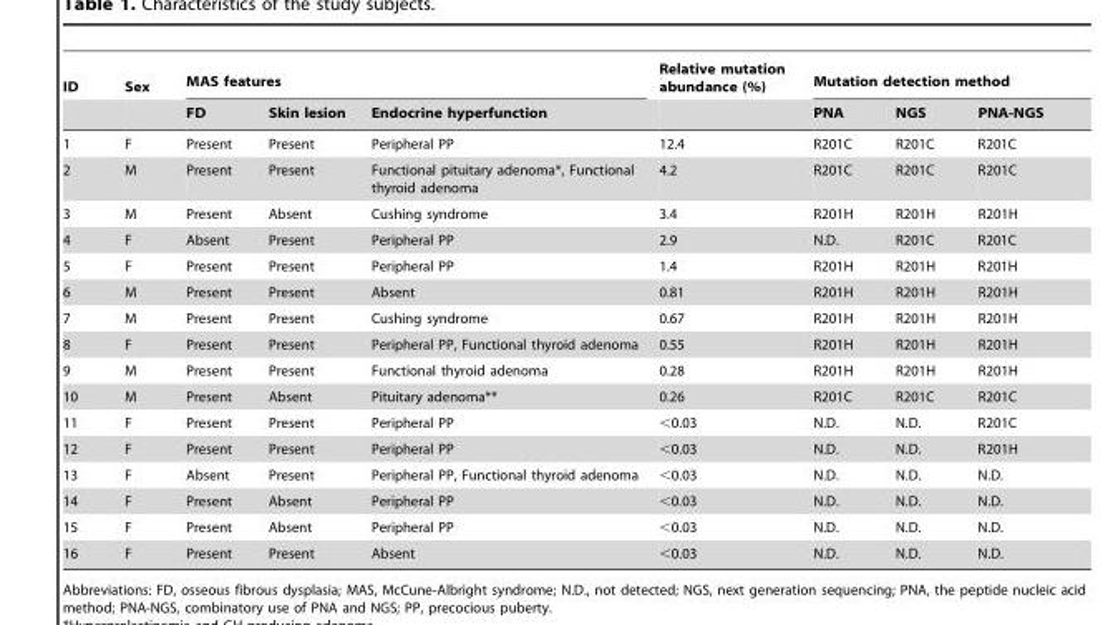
<table><thead><tr><td rowspan="2">ID</td><td rowspan="2">Sex</td><td colspan="3">MAS features</td><td rowspan="2">Relative mutation abundance (%)</td><td colspan="3">Mutation detection method</td></tr><tr><td>FD</td><td>Skin lesion</td><td>Endocrine hyperfunction</td><td>PNA</td><td>NGS</td><td>PNA-NGS</td></tr></thead><tbody><tr><td>1</td><td>F</td><td>Present</td><td>Present</td><td>Peripheral PP</td><td>12.4</td><td>R201C</td><td>R201C</td><td>R201C</td></tr><tr><td>2</td><td>M</td><td>Present</td><td>Present</td><td>Functional pituitary adenoma*, Functional thyroid adenoma</td><td>4.2</td><td>R201C</td><td>R201C</td><td>R201C</td></tr><tr><td>3</td><td>M</td><td>Present</td><td>Absent</td><td>Cushing syndrome</td><td>3.4</td><td>R201H</td><td>R201H</td><td>R201H</td></tr><tr><td>4</td><td>F</td><td>Absent</td><td>Present</td><td>Peripheral PP</td><td>2.9</td><td>N.D.</td><td>R201C</td><td>R201C</td></tr><tr><td>5</td><td>F</td><td>Present</td><td>Present</td><td>Peripheral PP</td><td>1.4</td><td>R201H</td><td>R201H</td><td>R201H</td></tr><tr><td>6</td><td>M</td><td>Present</td><td>Present</td><td>Absent</td><td>0.81</td><td>R201H</td><td>R201H</td><td>R201H</td></tr><tr><td>7</td><td>M</td><td>Present</td><td>Present</td><td>Cushing syndrome</td><td>0.67</td><td>R201H</td><td>R201H</td><td>R201H</td></tr><tr><td>8</td><td>F</td><td>Present</td><td>Present</td><td>Peripheral PP, Functional thyroid adenoma</td><td>0.55</td><td>R201H</td><td>R201H</td><td>R201H</td></tr><tr><td>9</td><td>M</td><td>Present</td><td>Present</td><td>Functional thyroid adenoma</td><td>0.28</td><td>R201H</td><td>R201H</td><td>R201H</td></tr><tr><td>10</td><td>M</td><td>Present</td><td>Absent</td><td>Pituitary adenoma**</td><td>0.26</td><td>R201C</td><td>R201C</td><td>R201C</td></tr><tr><td>11</td><td>F</td><td>Present</td><td>Present</td><td>Peripheral PP</td><td>&lt;0.03</td><td>N.D.</td><td>N.D.</td><td>R201C</td></tr><tr><td>12</td><td>F</td><td>Present</td><td>Present</td><td>Peripheral PP</td><td>&lt;0.03</td><td>N.D.</td><td>N.D.</td><td>R201H</td></tr><tr><td>13</td><td>F</td><td>Absent</td><td>Present</td><td>Peripheral PP, Functional thyroid adenoma</td><td>&lt;0.03</td><td>N.D.</td><td>N.D.</td><td>N.D.</td></tr><tr><td>14</td><td>F</td><td>Present</td><td>Absent</td><td>Peripheral PP</td><td>&lt;0.03</td><td>N.D.</td><td>N.D.</td><td>N.D.</td></tr><tr><td>15</td><td>F</td><td>Present</td><td>Absent</td><td>Peripheral PP</td><td>&lt;0.03</td><td>N.D.</td><td>N.D.</td><td>N.D.</td></tr><tr><td>16</td><td>F</td><td>Present</td><td>Present</td><td>Absent</td><td>&lt;0.03</td><td>N.D.</td><td>N.D.</td><td>N.D.</td></tr></tbody></table>